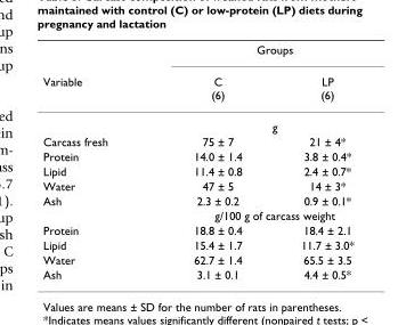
<table><thead><tr><td rowspan="2">Variable</td><td colspan="2">Groups</td></tr><tr><td>C (6)</td><td>LP (6)</td></tr></thead><tbody><tr><td></td><td colspan="2">g</td></tr><tr><td>Carcass fresh</td><td>75 ± 7</td><td>21 ± 4*</td></tr><tr><td>Protein</td><td>14.0 ± 1.4</td><td>3.8 ± 0.4*</td></tr><tr><td>Lipid</td><td>11.4 ± 0.8</td><td>2.4 ± 0.7*</td></tr><tr><td>Water</td><td>47 ± 5</td><td>14 ± 3*</td></tr><tr><td rowspan="2">Ash</td><td>2.3 ± 0.2</td><td>0.9 ± 0.1*</td></tr><tr><td colspan="2">g/100 g of carcass weight</td></tr><tr><td>Protein</td><td>18.8 ± 0.4</td><td>18.4 ± 2.1</td></tr><tr><td>Lipid</td><td>15.4 ± 1.7</td><td>11.7 ± 3.0*</td></tr><tr><td>Water</td><td>62.7 ± 1.4</td><td>65.5 ± 3.5</td></tr><tr><td>Ash</td><td>3.1 ± 0.1</td><td>4.4 ± 0.5*</td></tr></tbody></table>